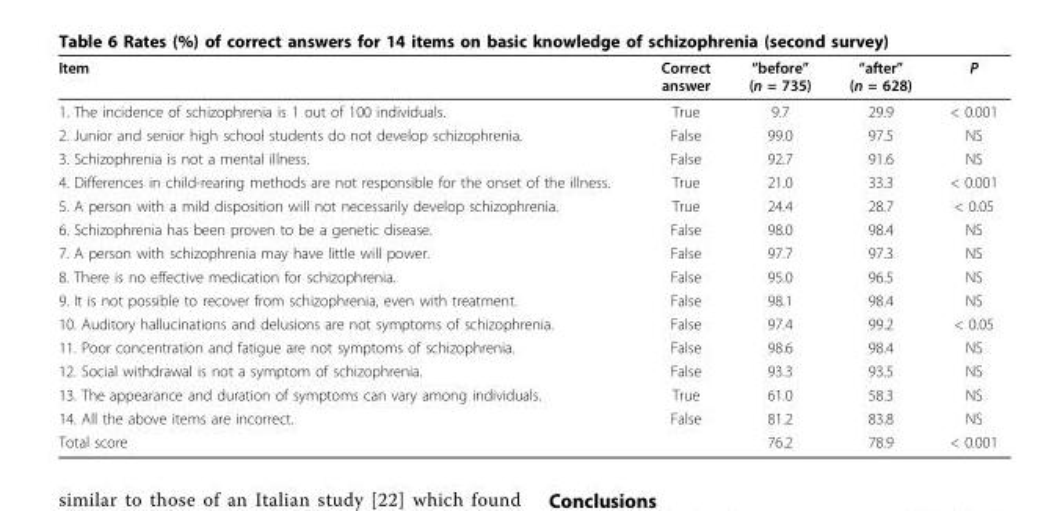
<table><thead><tr><td>Item</td><td>Correct answer</td><td>“before” (n = 735)</td><td>“after” (n = 628)</td><td>P</td></tr></thead><tbody><tr><td>1. The incidence of schizophrenia is 1 out of 100 individuals.</td><td>True</td><td>9.7</td><td>29.9</td><td>&lt; 0.001</td></tr><tr><td>2. Junior and senior high school students do not develop schizophrenia.</td><td>False</td><td>99.0</td><td>97.5</td><td>NS</td></tr><tr><td>3. Schizophrenia is not a mental illness.</td><td>False</td><td>92.7</td><td>91.6</td><td>NS</td></tr><tr><td>4. Differences in child-rearing methods are not responsible for the onset of the illness.</td><td>True</td><td>21.0</td><td>33.3</td><td>&lt; 0.001</td></tr><tr><td>5. A person with a mild disposition will not necessarily develop schizophrenia.</td><td>True</td><td>24.4</td><td>28.7</td><td>&lt; 0.05</td></tr><tr><td>6. Schizophrenia has been proven to be a genetic disease.</td><td>False</td><td>98.0</td><td>98.4</td><td>NS</td></tr><tr><td>7. A person with schizophrenia may have little will power.</td><td>False</td><td>97.7</td><td>97.3</td><td>NS</td></tr><tr><td>8. There is no effective medication for schizophrenia.</td><td>False</td><td>95.0</td><td>96.5</td><td>NS</td></tr><tr><td>9. It is not possible to recover from schizophrenia, even with treatment.</td><td>False</td><td>98.1</td><td>98.4</td><td>NS</td></tr><tr><td>10. Auditory hallucinations and delusions are not symptoms of schizophrenia.</td><td>False</td><td>97.4</td><td>99.2</td><td>&lt; 0.05</td></tr><tr><td>11. Poor concentration and fatigue are not symptoms of schizophrenia.</td><td>False</td><td>98.6</td><td>98.4</td><td>NS</td></tr><tr><td>12. Social withdrawal is not a symptom of schizophrenia.</td><td>False</td><td>93.3</td><td>93.5</td><td>NS</td></tr><tr><td>13. The appearance and duration of symptoms can vary among individuals.</td><td>True</td><td>61.0</td><td>58.3</td><td>NS</td></tr><tr><td>14. All the above items are incorrect.</td><td>False</td><td>81.2</td><td>83.8</td><td>NS</td></tr><tr><td>Total score</td><td></td><td>76.2</td><td>78.9</td><td>&lt; 0.001</td></tr></tbody></table>